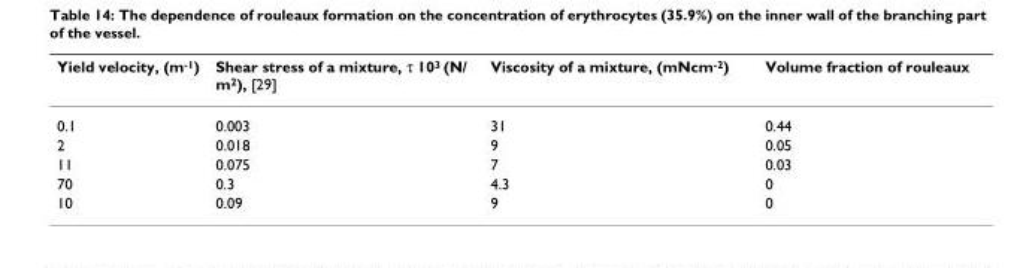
<table><thead><tr><td>Yield velocity, (m<sup>-1</sup>)</td><td>Shear stress of a mixture, τ 10<sup>3</sup> (N/ m<sup>2</sup>), [29]</td><td>Viscosity of a mixture, (mNcm<sup>-2</sup>)</td><td>Volume fraction of rouleaux</td></tr></thead><tbody><tr><td>0.1</td><td>0.003</td><td>31</td><td>0.44</td></tr><tr><td>2</td><td>0.018</td><td>9</td><td>0.05</td></tr><tr><td>11</td><td>0.075</td><td>7</td><td>0.03</td></tr><tr><td>70</td><td>0.3</td><td>4.3</td><td>0</td></tr><tr><td>10</td><td>0.09</td><td>9</td><td>0</td></tr></tbody></table>